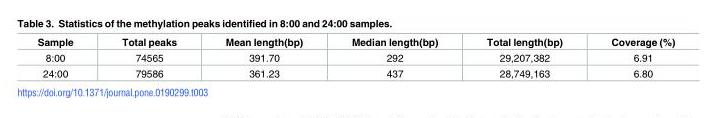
<table><thead><tr><td>Sample</td><td>Total peaks</td><td>Mean length(bp)</td><td>Median length(bp)</td><td>Total length(bp)</td><td>Coverage (%)</td></tr></thead><tbody><tr><td>8:00</td><td>74565</td><td>391.70</td><td>292</td><td>29,207,382</td><td>6.91</td></tr><tr><td>24:00</td><td>79586</td><td>361.23</td><td>437</td><td>28,749,163</td><td>6.80</td></tr></tbody></table>